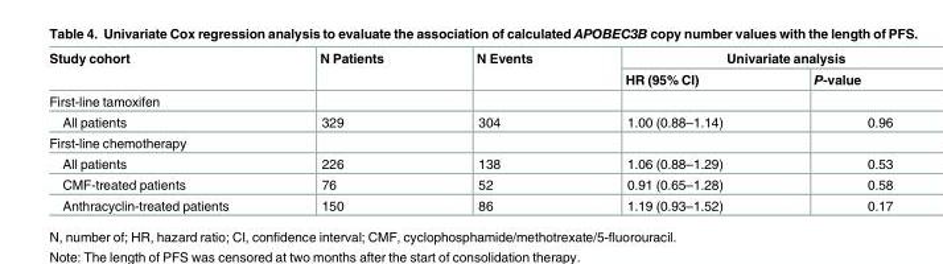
<table><thead><tr><td rowspan="2">Study cohort</td><td rowspan="2">N Patients</td><td rowspan="2">N Events</td><td colspan="2">Univariate analysis</td></tr><tr><td>HR (95% CI)</td><td>P-value</td></tr></thead><tbody><tr><td colspan="5">First-line tamoxifen</td></tr><tr><td>All patients</td><td>329</td><td>304</td><td>1.00 (0.88–1.14)</td><td>0.96</td></tr><tr><td colspan="5">First-line chemotherapy</td></tr><tr><td>All patients</td><td>226</td><td>138</td><td>1.06 (0.88–1.29)</td><td>0.53</td></tr><tr><td>CMF-treated patients</td><td>76</td><td>52</td><td>0.91 (0.65–1.28)</td><td>0.58</td></tr><tr><td>Anthracyclin-treated patients</td><td>150</td><td>86</td><td>1.19 (0.93–1.52)</td><td>0.17</td></tr></tbody></table>